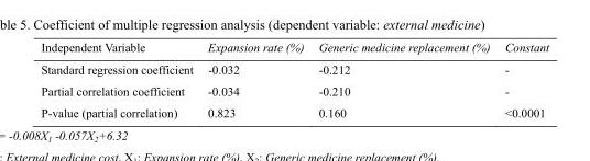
<table><thead><tr><td>Independent Variable</td><td>Expansion rate (%)</td><td>Generic medicine replacement (%)</td><td>Constant</td></tr></thead><tbody><tr><td>Standard regression coefficient</td><td>-0.032</td><td>-0.212</td><td>-</td></tr><tr><td>Partial correlation coefficient</td><td>-0.034</td><td>-0.210</td><td>-</td></tr><tr><td>P-value (partial correlation)</td><td>0.823</td><td>0.160</td><td>&lt;0.0001</td></tr></tbody></table>